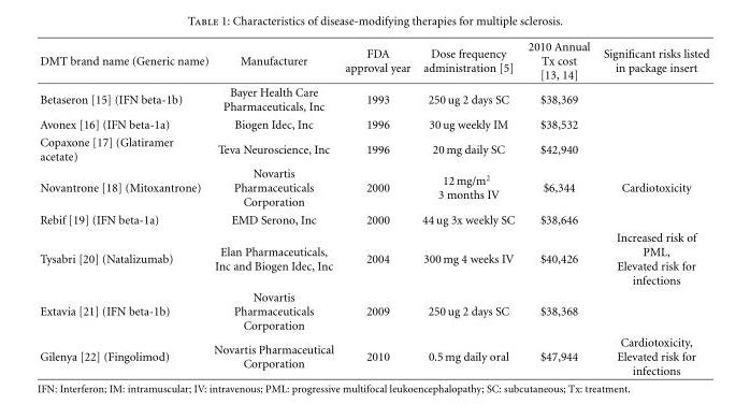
<table><thead><tr><td>DMT brand name (Generic name)</td><td>Manufacturer</td><td>FDA approval year</td><td>Dose frequency administration [5]</td><td>2010 Annual Tx cost [13, 14]</td><td>Significant risks listed in package insert</td></tr></thead><tbody><tr><td>Betaseron [15] (IFN beta-1b)</td><td>Bayer Health Care Pharmaceuticals, Inc</td><td>1993</td><td>250 ug 2 days SC</td><td>$38,369</td><td></td></tr><tr><td>Avonex [16] (IFN beta-1a)</td><td>Biogen Idec, Inc</td><td>1996</td><td>30 ug weekly IM</td><td>$38,532</td><td></td></tr><tr><td>Copaxone [17] (Glatiramer acetate)</td><td>Teva Neuroscience, Inc</td><td>1996</td><td>20 mg daily SC</td><td>$42,940</td><td></td></tr><tr><td>Novantrone [18] (Mitoxantrone)</td><td>Novartis Pharmaceuticals Corporation</td><td>2000</td><td>12 mg/m<sup>2</sup> 3 months IV</td><td>$6,344</td><td>Cardiotoxicity</td></tr><tr><td>Rebif [19] (IFN beta-1a)</td><td>EMD Serono, Inc</td><td>2000</td><td>44 ug 3x weekly SC</td><td>$38,646</td><td></td></tr><tr><td>Tysabri [20] (Natalizumab)</td><td>Elan Pharmaceuticals, Inc and Biogen Idec, Inc</td><td>2004</td><td>300 mg 4 weeks IV</td><td>$40,426</td><td>Increased risk of PML, Elevated risk for infections</td></tr><tr><td>Extavia [21] (IFN beta-1b)</td><td>Novartis Pharmaceuticals Corporation</td><td>2009</td><td>250 ug 2 days SC</td><td>$38,368</td><td></td></tr><tr><td>Gilenya [22] (Fingolimod)</td><td>Novartis Pharmaceutical Corporation</td><td>2010</td><td>0.5 mg daily oral</td><td>$47,944</td><td>Cardiotoxicity, Elevated risk for infections</td></tr></tbody></table>